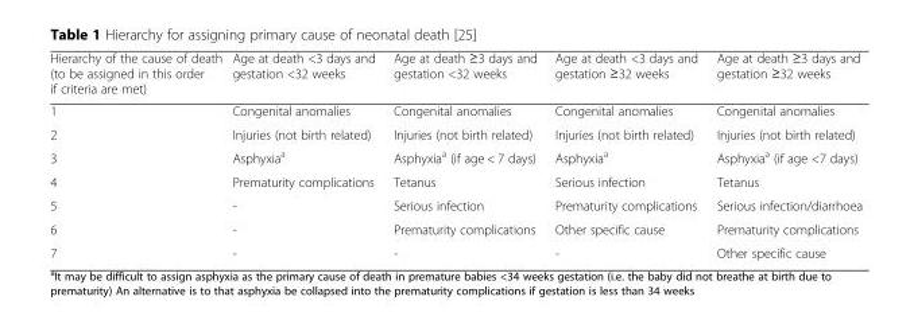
<table><thead><tr><td>Hierarchy of the cause of death (to be assigned in this order if criteria are met)</td><td>Age at death &lt;3 days and gestation &lt;32 weeks</td><td>Age at death ≥3 days and gestation &lt;32 weeks</td><td>Age at death &lt;3 days and gestation ≥32 weeks</td><td>Age at death ≥3 days and gestation ≥32 weeks</td></tr></thead><tbody><tr><td>1</td><td>Congenital anomalies</td><td>Congenital anomalies</td><td>Congenital anomalies</td><td>Congenital anomalies</td></tr><tr><td>2</td><td>Injuries (not birth related)</td><td>Injuries (not birth related)</td><td>Injuries (not birth related)</td><td>Injuries (not birth related)</td></tr><tr><td>3</td><td>Asphyxia<sup>a</sup></td><td>Asphyxia<sup>a</sup> (if age &lt; 7 days)</td><td>Asphyxia<sup>a</sup></td><td>Asphyxia<sup>a</sup> (if age &lt;7 days)</td></tr><tr><td>4</td><td>Prematurity complications</td><td>Tetanus</td><td>Serious infection</td><td>Tetanus</td></tr><tr><td>5</td><td>-</td><td>Serious infection</td><td>Prematurity complications</td><td>Serious infection/diarrhoea</td></tr><tr><td>6</td><td>-</td><td>Prematurity complications</td><td>Other specific cause</td><td>Prematurity complications</td></tr><tr><td>7</td><td>-</td><td>-</td><td>-</td><td>Other specific cause</td></tr></tbody></table>